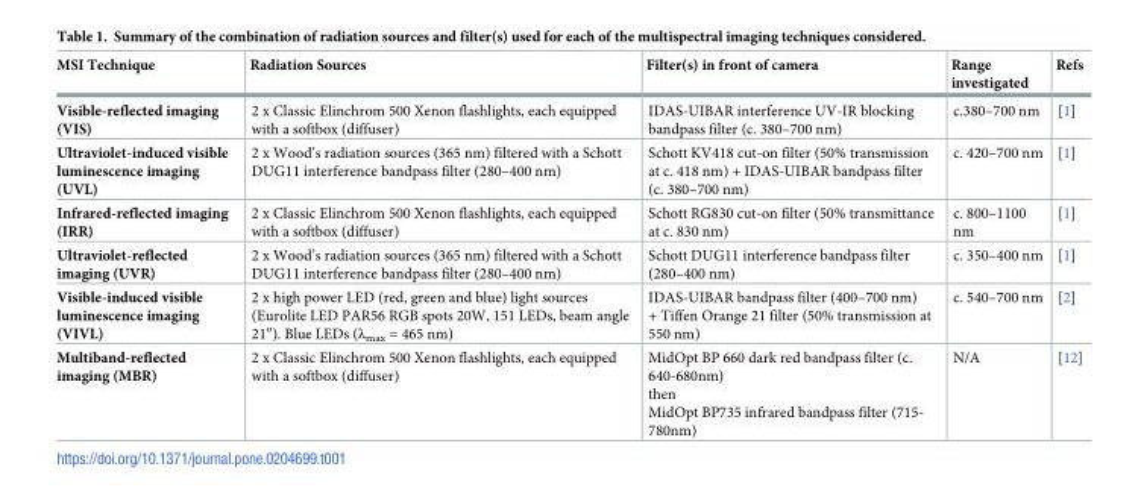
<table><thead><tr><td>MSI Technique</td><td>Radiation Sources</td><td>Filter(s) in front of camera</td><td>Range investigated</td><td>Refs</td></tr></thead><tbody><tr><td>Visible-reflected imaging (VIS)</td><td>2 x Classic Elinchrom 500 Xenon flashlights, each equipped with a softbox (diffuser)</td><td>IDAS-UIBAR interference UV-IR blocking bandpass filter (c. 380–700 nm)</td><td>c.380–700 nm</td><td>[1]</td></tr><tr><td>Ultraviolet-induced visible luminescence imaging (UVL)</td><td>2 x Wood’s radiation sources (365 nm) filtered with a Schott DUG11 interference bandpass filter (280–400 nm)</td><td>Schott KV418 cut-on filter (50% transmission at c. 418 nm) + IDAS-UIBAR bandpass filter (c. 380–700 nm)</td><td>c. 420–700 nm</td><td>[1]</td></tr><tr><td>Infrared-reflected imaging (IRR)</td><td>2 x Classic Elinchrom 500 Xenon flashlights, each equipped with a softbox (diffuser)</td><td>Schott RG830 cut-on filter (50% transmittance at c. 830 nm)</td><td>c. 800–1100 nm</td><td>[1]</td></tr><tr><td>Ultraviolet-reflected imaging (UVR)</td><td>2 x Wood’s radiation sources (365 nm) filtered with a Schott DUG11 interference bandpass filter (280–400 nm)</td><td>Schott DUG11 interference bandpass filter (280–400 nm)</td><td>c. 350–400 nm</td><td>[1]</td></tr><tr><td>Visible-induced visible luminescence imaging (VIVL)</td><td>2 x high power LED (red, green and blue) light sources (Eurolite LED PAR56 RGB spots 20W, 151 LEDs, beam angle 21<sup>o</sup>). Blue LEDs (λ<sub>max</sub> = 465 nm)</td><td>IDAS-UIBAR bandpass filter (400–700 nm) + Tiffen Orange 21 filter (50% transmission at 550 nm)</td><td>c. 540–700 nm</td><td>[2]</td></tr><tr><td>Multiband-reflected imaging (MBR)</td><td>2 x Classic Elinchrom 500 Xenon flashlights, each equipped with a softbox (diffuser)</td><td>MidOpt BP 660 dark red bandpass filter (c. 640-680nm) then MidOpt BP735 infrared bandpass filter (715- 780nm)</td><td>N/A</td><td>[12]</td></tr></tbody></table>